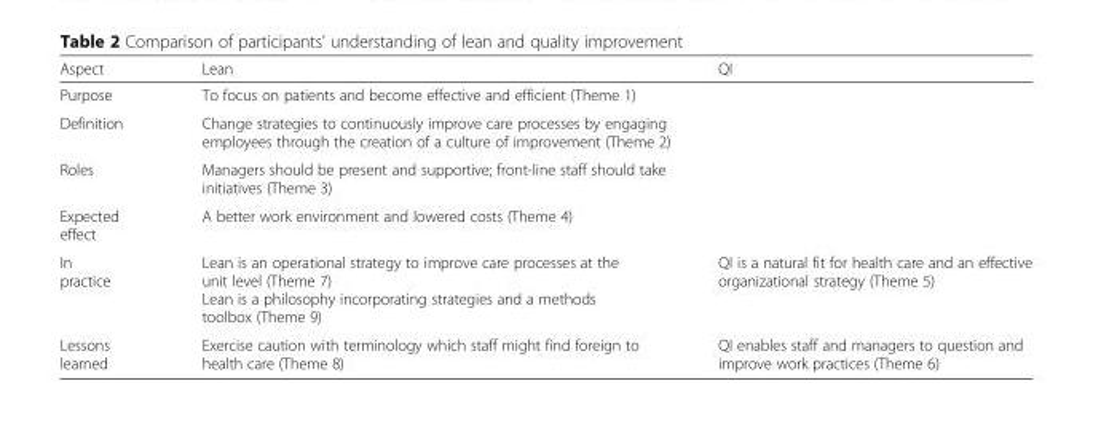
<table><thead><tr><td>Aspect</td><td>Lean</td><td>QI</td></tr></thead><tbody><tr><td>Purpose</td><td colspan="2">To focus on patients and become effective and efficient (Theme 1)</td></tr><tr><td>Definition</td><td colspan="2">Change strategies to continuously improve care processes by engaging employees through the creation of a culture of improvement (Theme 2)</td></tr><tr><td>Roles</td><td colspan="2">Managers should be present and supportive; front-line staff should take initiatives (Theme 3)</td></tr><tr><td>Expected effect</td><td colspan="2">A better work environment and lowered costs (Theme 4)</td></tr><tr><td>In practice</td><td>Lean is an operational strategy to improve care processes at the unit level (Theme 7) Lean is a philosophy incorporating strategies and a methods toolbox (Theme 9)</td><td>QI is a natural fit for health care and an effective organizational strategy (Theme 5)</td></tr><tr><td>Lessons learned</td><td>Exercise caution with terminology which staff might find foreign to health care (Theme 8)</td><td>QI enables staff and managers to question and improve work practices (Theme 6)</td></tr></tbody></table>